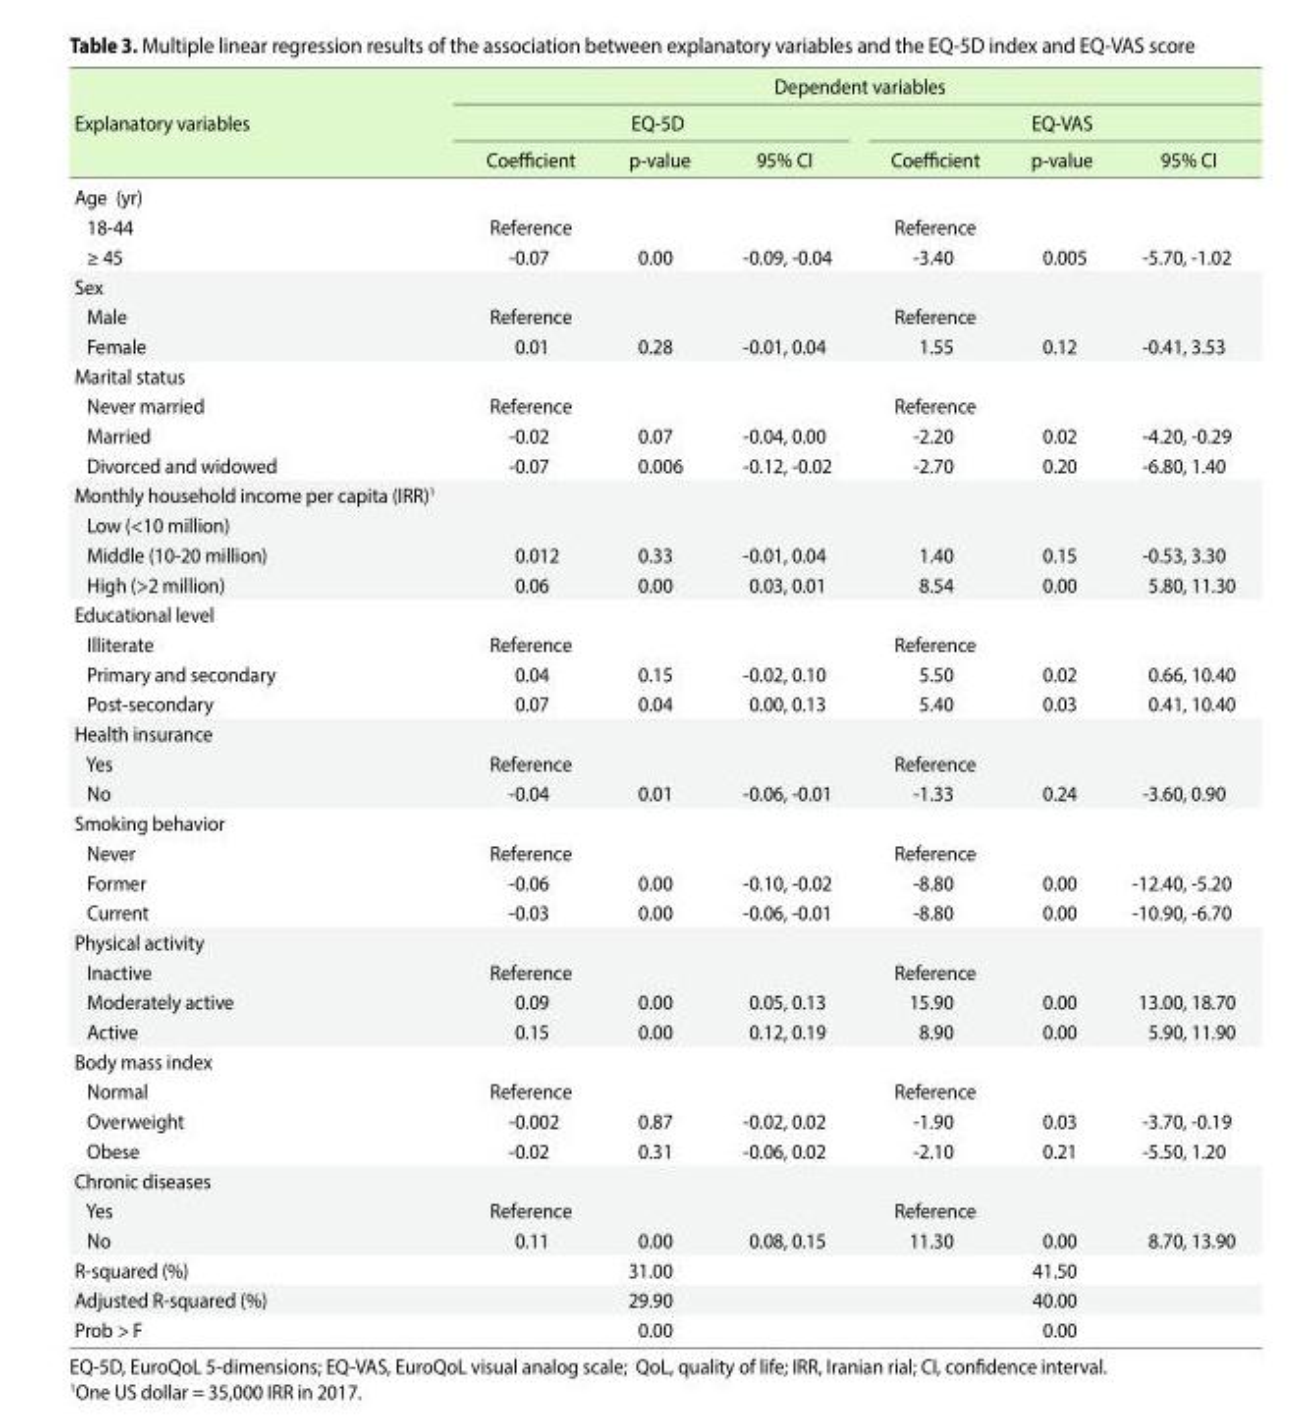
<table><thead><tr><td rowspan="3">Explanatory variables</td><td colspan="6">Dependent variables</td></tr><tr><td colspan="3">EQ-5D</td><td colspan="3">EQ-VAS</td></tr><tr><td>Coefficient</td><td>p-value</td><td>95% CI</td><td>Coefficient</td><td>p-value</td><td>95% CI</td></tr></thead><tbody><tr><td colspan="7">Age (yr)</td></tr><tr><td>18-44</td><td>Reference</td><td></td><td></td><td>Reference</td><td></td><td></td></tr><tr><td>≥ 45</td><td>-0.07</td><td>0.00</td><td>-0.09, -0.04</td><td>-3.40</td><td>0.005</td><td>-5.70, -1.02</td></tr><tr><td colspan="7">Sex</td></tr><tr><td>Male</td><td>Reference</td><td></td><td></td><td>Reference</td><td></td><td></td></tr><tr><td>Female</td><td>0.01</td><td>0.28</td><td>-0.01, 0.04</td><td>1.55</td><td>0.12</td><td>-0.41, 3.53</td></tr><tr><td colspan="7">Marital status</td></tr><tr><td>Never married</td><td>Reference</td><td></td><td></td><td>Reference</td><td></td><td></td></tr><tr><td>Married</td><td>-0.02</td><td>0.07</td><td>-0.04, 0.00</td><td>-2.20</td><td>0.02</td><td>-4.20, -0.29</td></tr><tr><td>Divorced and widowed</td><td>-0.07</td><td>0.006</td><td>-0.12, -0.02</td><td>-2.70</td><td>0.20</td><td>-6.80, 1.40</td></tr><tr><td colspan="7">Monthly household income per capita (IRR)<sup>1</sup></td></tr><tr><td colspan="7">Low (&lt;10 million)</td></tr><tr><td>Middle (10-20 million)</td><td>0.012</td><td>0.33</td><td>-0.01, 0.04</td><td>1.40</td><td>0.15</td><td>-0.53, 3.30</td></tr><tr><td>High (&gt;2 million)</td><td>0.06</td><td>0.00</td><td>0.03, 0.01</td><td>8.54</td><td>0.00</td><td>5.80, 11.30</td></tr><tr><td colspan="7">Educational level</td></tr><tr><td>Illiterate</td><td>Reference</td><td></td><td></td><td>Reference</td><td></td><td></td></tr><tr><td>Primary and secondary</td><td>0.04</td><td>0.15</td><td>-0.02, 0.10</td><td>5.50</td><td>0.02</td><td>0.66, 10.40</td></tr><tr><td>Post-secondary</td><td>0.07</td><td>0.04</td><td>0.00, 0.13</td><td>5.40</td><td>0.03</td><td>0.41, 10.40</td></tr><tr><td colspan="7">Health insurance</td></tr><tr><td>Yes</td><td>Reference</td><td></td><td></td><td>Reference</td><td></td><td></td></tr><tr><td>No</td><td>-0.04</td><td>0.01</td><td>-0.06, -0.01</td><td>-1.33</td><td>0.24</td><td>-3.60, 0.90</td></tr><tr><td colspan="7">Smoking behavior</td></tr><tr><td>Never</td><td>Reference</td><td></td><td></td><td>Reference</td><td></td><td></td></tr><tr><td>Former</td><td>-0.06</td><td>0.00</td><td>-0.10, -0.02</td><td>-8.80</td><td>0.00</td><td>-12.40, -5.20</td></tr><tr><td>Current</td><td>-0.03</td><td>0.00</td><td>-0.06, -0.01</td><td>-8.80</td><td>0.00</td><td>-10.90, -6.70</td></tr><tr><td colspan="7">Physical activity</td></tr><tr><td>Inactive</td><td>Reference</td><td></td><td></td><td>Reference</td><td></td><td></td></tr><tr><td>Moderately active</td><td>0.09</td><td>0.00</td><td>0.05, 0.13</td><td>15.90</td><td>0.00</td><td>13.00, 18.70</td></tr><tr><td>Active</td><td>0.15</td><td>0.00</td><td>0.12, 0.19</td><td>8.90</td><td>0.00</td><td>5.90, 11.90</td></tr><tr><td colspan="7">Body mass index</td></tr><tr><td>Normal</td><td>Reference</td><td></td><td></td><td>Reference</td><td></td><td></td></tr><tr><td>Overweight</td><td>-0.002</td><td>0.87</td><td>-0.02, 0.02</td><td>-1.90</td><td>0.03</td><td>-3.70, -0.19</td></tr><tr><td>Obese</td><td>-0.02</td><td>0.31</td><td>-0.06, 0.02</td><td>-2.10</td><td>0.21</td><td>-5.50, 1.20</td></tr><tr><td colspan="7">Chronic diseases</td></tr><tr><td>Yes</td><td>Reference</td><td></td><td></td><td>Reference</td><td></td><td></td></tr><tr><td>No</td><td>0.11</td><td>0.00</td><td>0.08, 0.15</td><td>11.30</td><td>0.00</td><td>8.70, 13.90</td></tr><tr><td>R-squared (%)</td><td></td><td>31.00</td><td></td><td></td><td>41.50</td><td></td></tr><tr><td>Adjusted R-squared (%)</td><td></td><td>29.90</td><td></td><td></td><td>40.00</td><td></td></tr><tr><td>Prob &gt; F</td><td></td><td>0.00</td><td></td><td></td><td>0.00</td><td></td></tr></tbody></table>